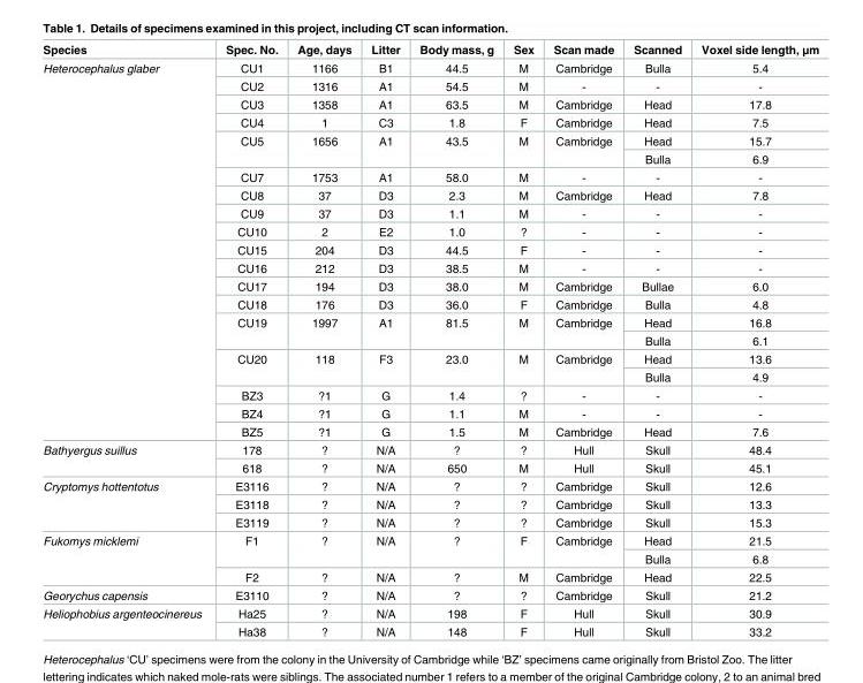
<table><thead><tr><td>Species</td><td>Spec. No.</td><td>Age, days</td><td>Litter</td><td>Body mass, g</td><td>Sex</td><td>Scan made</td><td>Scanned</td><td>Voxel side length, μm</td></tr></thead><tbody><tr><td rowspan="21">Heterocephalus glaber</td><td>CU1</td><td>1166</td><td>B1</td><td>44.5</td><td>M</td><td>Cambridge</td><td>Bulla</td><td>5.4</td></tr><tr><td>CU2</td><td>1316</td><td>A1</td><td>54.5</td><td>M</td><td>-</td><td>-</td><td>-</td></tr><tr><td>CU3</td><td>1358</td><td>A1</td><td>63.5</td><td>M</td><td>Cambridge</td><td>Head</td><td>17.8</td></tr><tr><td>CU4</td><td>1</td><td>C3</td><td>1.8</td><td>F</td><td>Cambridge</td><td>Head</td><td>7.5</td></tr><tr><td rowspan="2">CU5</td><td rowspan="2">1656</td><td rowspan="2">A1</td><td rowspan="2">43.5</td><td rowspan="2">M</td><td rowspan="2">Cambridge</td><td>Head</td><td>15.7</td></tr><tr><td>Bulla</td><td>6.9</td></tr><tr><td>CU7</td><td>1753</td><td>A1</td><td>58.0</td><td>M</td><td>-</td><td>-</td><td>-</td></tr><tr><td>CU8</td><td>37</td><td>D3</td><td>2.3</td><td>M</td><td>Cambridge</td><td>Head</td><td>7.8</td></tr><tr><td>CU9</td><td>37</td><td>D3</td><td>1.1</td><td>M</td><td>-</td><td>-</td><td>-</td></tr><tr><td>CU10</td><td>2</td><td>E2</td><td>1.0</td><td>?</td><td>-</td><td>-</td><td>-</td></tr><tr><td>CU15</td><td>204</td><td>D3</td><td>44.5</td><td>F</td><td>-</td><td>-</td><td>-</td></tr><tr><td>CU16</td><td>212</td><td>D3</td><td>38.5</td><td>M</td><td>-</td><td>-</td><td>-</td></tr><tr><td>CU17</td><td>194</td><td>D3</td><td>38.0</td><td>M</td><td>Cambridge</td><td>Bullae</td><td>6.0</td></tr><tr><td>CU18</td><td>176</td><td>D3</td><td>36.0</td><td>F</td><td>Cambridge</td><td>Bulla</td><td>4.8</td></tr><tr><td rowspan="2">CU19</td><td rowspan="2">1997</td><td rowspan="2">A1</td><td rowspan="2">81.5</td><td rowspan="2">M</td><td rowspan="2">Cambridge</td><td>Head</td><td>16.8</td></tr><tr><td>Bulla</td><td>6.1</td></tr><tr><td rowspan="2">CU20</td><td rowspan="2">118</td><td rowspan="2">F3</td><td rowspan="2">23.0</td><td rowspan="2">M</td><td rowspan="2">Cambridge</td><td>Head</td><td>13.6</td></tr><tr><td>Bulla</td><td>4.9</td></tr><tr><td>BZ3</td><td>?1</td><td>G</td><td>1.4</td><td>?</td><td>-</td><td>-</td><td>-</td></tr><tr><td>BZ4</td><td>?1</td><td>G</td><td>1.1</td><td>M</td><td>-</td><td>-</td><td>-</td></tr><tr><td>BZ5</td><td>?1</td><td>G</td><td>1.5</td><td>M</td><td>Cambridge</td><td>Head</td><td>7.6</td></tr><tr><td rowspan="2">Bathyergus suillus</td><td>178</td><td>?</td><td>N/A</td><td>?</td><td>?</td><td>Hull</td><td>Skull</td><td>48.4</td></tr><tr><td>618</td><td>?</td><td>N/A</td><td>650</td><td>M</td><td>Hull</td><td>Skull</td><td>45.1</td></tr><tr><td rowspan="3">Cryptomys hottentotus</td><td>E3116</td><td>?</td><td>N/A</td><td>?</td><td>?</td><td>Cambridge</td><td>Skull</td><td>12.6</td></tr><tr><td>E3118</td><td>?</td><td>N/A</td><td>?</td><td>?</td><td>Cambridge</td><td>Skull</td><td>13.3</td></tr><tr><td>E3119</td><td>?</td><td>N/A</td><td>?</td><td>?</td><td>Cambridge</td><td>Skull</td><td>15.3</td></tr><tr><td rowspan="3">Fukomys micklemi</td><td rowspan="2">F1</td><td rowspan="2">?</td><td rowspan="2">N/A</td><td rowspan="2">?</td><td rowspan="2">F</td><td rowspan="2">Cambridge</td><td>Head</td><td>21.5</td></tr><tr><td>Bulla</td><td>6.8</td></tr><tr><td>F2</td><td>?</td><td>N/A</td><td>?</td><td>M</td><td>Cambridge</td><td>Head</td><td>22.5</td></tr><tr><td>Georychus capensis</td><td>E3110</td><td>?</td><td>N/A</td><td>?</td><td>?</td><td>Cambridge</td><td>Skull</td><td>21.2</td></tr><tr><td rowspan="2">Heliophobius argenteocinereus</td><td>Ha25</td><td>?</td><td>N/A</td><td>198</td><td>F</td><td>Hull</td><td>Skull</td><td>30.9</td></tr><tr><td>Ha38</td><td>?</td><td>N/A</td><td>148</td><td>F</td><td>Hull</td><td>Skull</td><td>33.2</td></tr></tbody></table>